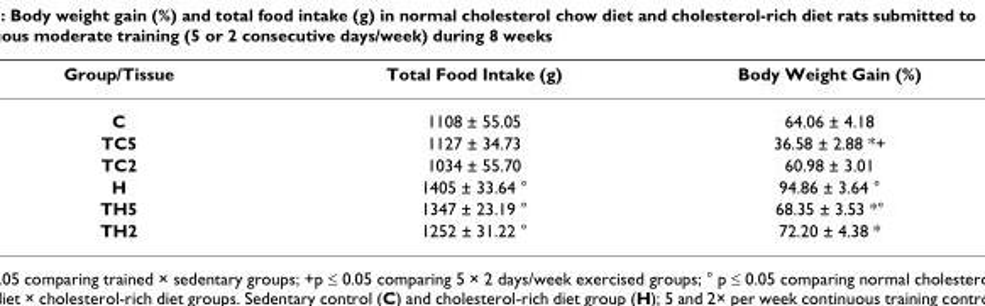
<table><thead><tr><td>Group/Tissue</td><td>Total Food Intake (g)</td><td>Body Weight Gain (%)</td></tr></thead><tbody><tr><td>C</td><td>1108 ± 55.05</td><td>64.06 ± 4.18</td></tr><tr><td>TC5</td><td>1127 ± 34.73</td><td>36.58 ± 2.88 *+</td></tr><tr><td>TC2</td><td>1034 ± 55.70</td><td>60.98 ± 3.01</td></tr><tr><td>H</td><td>1405 ± 33.64 °</td><td>94.86 ± 3.64 °</td></tr><tr><td>TH5</td><td>1347 ± 23.19 °</td><td>68.35 ± 3.53 *°</td></tr><tr><td>TH2</td><td>1252 ± 31.22 °</td><td>72.20 ± 4.38 *</td></tr></tbody></table>